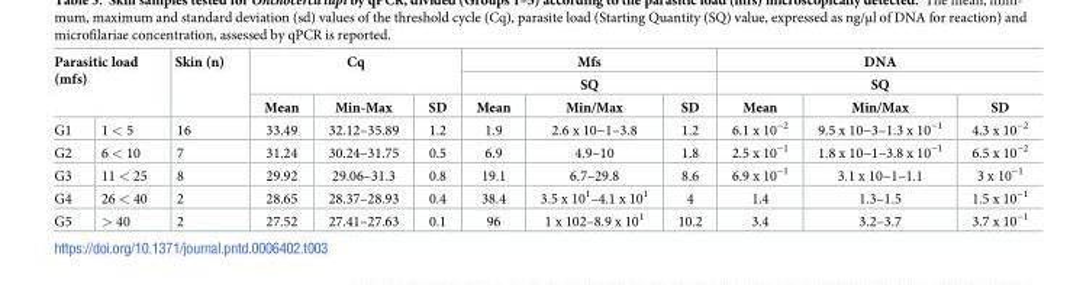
<table><thead><tr><td rowspan="3" colspan="2">Parasitic load (mfs)</td><td rowspan="4">Skin (n) 16</td><td rowspan="2" colspan="3">Cq</td><td rowspan="2" colspan="3">Mfs SQ</td><td rowspan="2" colspan="3">DNA SQ</td></tr><tr></tr><tr><td rowspan="2">Mean 33.49</td><td rowspan="2">Min-Max 32.12–35.89</td><td rowspan="2">SD 1.2</td><td rowspan="2">Mean 1.9</td><td rowspan="2">Min/Max 2.6 x 10−1–3.8</td><td rowspan="2">SD 1.2</td><td rowspan="2">Mean 6.1 x 10<sup>−2</sup></td><td rowspan="2">Min/Max 9.5 x 10−3–1.3 x 10<sup>−1</sup></td><td rowspan="2">SD 4.3 x 10<sup>−2</sup></td></tr><tr><td>G1</td><td>1 &lt; 5</td></tr></thead><tbody><tr><td>G2</td><td>6 &lt; 10</td><td>7</td><td>31.24</td><td>30.24–31.75</td><td>0.5</td><td>6.9</td><td>4.9–10</td><td>1.8</td><td>2.5 x 10<sup>−1</sup></td><td>1.8 x 10−1–3.8 x 10<sup>−1</sup></td><td>6.5 x 10<sup>−2</sup></td></tr><tr><td>G3</td><td>11 &lt; 25</td><td>8</td><td>29.92</td><td>29.06–31.3</td><td>0.8</td><td>19.1</td><td>6.7–29.8</td><td>8.6</td><td>6.9 x 10<sup>−1</sup></td><td>3.1 x 10−1–1.1</td><td>3 x 10<sup>−1</sup></td></tr><tr><td>G4</td><td>26 &lt; 40</td><td>2</td><td>28.65</td><td>28.37–28.93</td><td>0.4</td><td>38.4</td><td>3.5 x 10<sup>1</sup>–4.1 x 10<sup>1</sup></td><td>4</td><td>1.4</td><td>1.3–1.5</td><td>1.5 x 10<sup>−1</sup></td></tr><tr><td>G5</td><td>&gt; 40</td><td>2</td><td>27.52</td><td>27.41–27.63</td><td>0.1</td><td>96</td><td>1 x 102–8.9 x 10<sup>1</sup></td><td>10.2</td><td>3.4</td><td>3.2–3.7</td><td>3.7 x 10<sup>−1</sup></td></tr></tbody></table>